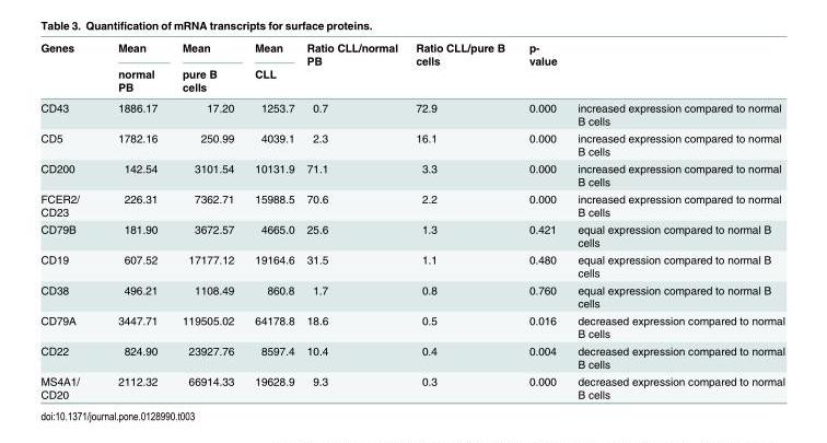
<table><thead><tr><td rowspan="2">Genes</td><td rowspan="2">Mean normal PB</td><td rowspan="2">Mean pure B cells</td><td rowspan="2">Mean CLL</td><td rowspan="2">Ratio CLL/normal PB</td><td rowspan="2">Ratio CLL/pure B cells</td><td rowspan="2">p- value</td><td rowspan="2"></td></tr><tr></tr></thead><tbody><tr><td>CD43</td><td>1886.17</td><td>17.20</td><td>1253.7</td><td>0.7</td><td>72.9</td><td>0.000</td><td>increased expression compared to normal B cells</td></tr><tr><td>CD5</td><td>1782.16</td><td>250.99</td><td>4039.1</td><td>2.3</td><td>16.1</td><td>0.000</td><td>increased expression compared to normal B cells</td></tr><tr><td>CD200</td><td>142.54</td><td>3101.54</td><td>10131.9</td><td>71.1</td><td>3.3</td><td>0.000</td><td>increased expression compared to normal B cells</td></tr><tr><td>FCER2/ CD23</td><td>226.31</td><td>7362.71</td><td>15988.5</td><td>70.6</td><td>2.2</td><td>0.000</td><td>increased expression compared to normal B cells</td></tr><tr><td>CD79B</td><td>181.90</td><td>3672.57</td><td>4665.0</td><td>25.6</td><td>1.3</td><td>0.421</td><td>equal expression compared to normal B cells</td></tr><tr><td>CD19</td><td>607.52</td><td>17177.12</td><td>19164.6</td><td>31.5</td><td>1.1</td><td>0.480</td><td>equal expression compared to normal B cells</td></tr><tr><td>CD38</td><td>496.21</td><td>1108.49</td><td>860.8</td><td>1.7</td><td>0.8</td><td>0.760</td><td>equal expression compared to normal B cells</td></tr><tr><td>CD79A</td><td>3447.71</td><td>119505.02</td><td>64178.8</td><td>18.6</td><td>0.5</td><td>0.016</td><td>decreased expression compared to normal B cells</td></tr><tr><td>CD22</td><td>824.90</td><td>23927.76</td><td>8597.4</td><td>10.4</td><td>0.4</td><td>0.004</td><td>decreased expression compared to normal B cells</td></tr><tr><td>MS4A1/ CD20</td><td>2112.32</td><td>66914.33</td><td>19628.9</td><td>9.3</td><td>0.3</td><td>0.000</td><td>decreased expression compared to normal B cells</td></tr></tbody></table>